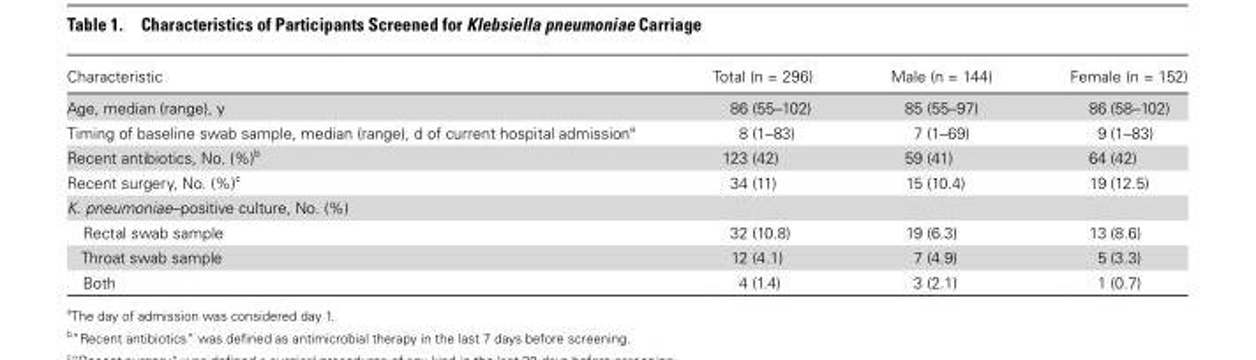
<table><thead><tr><td>Characteristic</td><td>Total (n = 296)</td><td>Male (n = 144)</td><td>Female (n = 152)</td></tr></thead><tbody><tr><td>Age, median (range), y</td><td>86 (55–102)</td><td>85 (55–97)</td><td>86 (58–102)</td></tr><tr><td>Timing of baseline swab sample, median (range), d of current hospital admission<sup>a</sup></td><td>8 (1–83)</td><td>7 (1–69)</td><td>9 (1–83)</td></tr><tr><td>Recent antibiotics, No. (%)<sup>b</sup></td><td>123 (42)</td><td>59 (41)</td><td>64 (42)</td></tr><tr><td>Recent surgery, No. (%)<sup>c</sup></td><td>34 (11)</td><td>15 (10.4)</td><td>19 (12.5)</td></tr><tr><td colspan="4">K. pneumoniae–positive culture, No. (%)</td></tr><tr><td>Rectal swab sample</td><td>32 (10.8)</td><td>19 (6.3)</td><td>13 (8.6)</td></tr><tr><td>Throat swab sample</td><td>12 (4.1)</td><td>7 (4.9)</td><td>5 (3.3)</td></tr><tr><td>Both</td><td>4 (1.4)</td><td>3 (2.1)</td><td>1 (0.7)</td></tr></tbody></table>